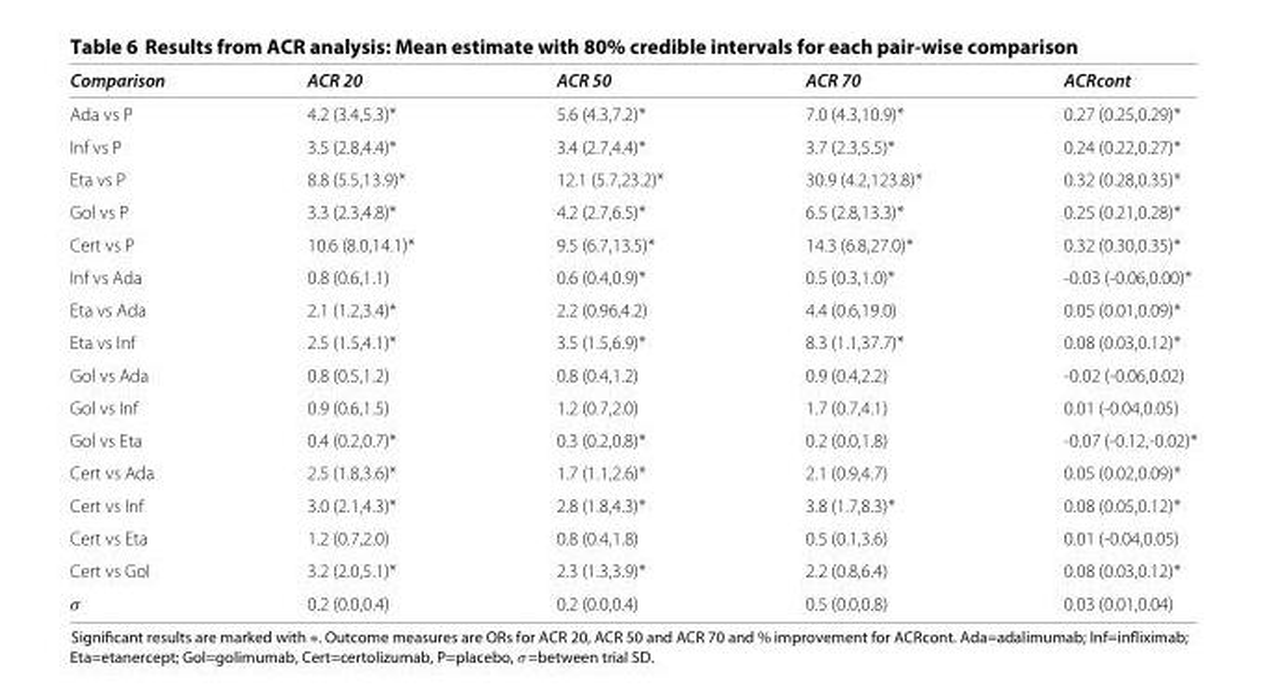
<table><thead><tr><td>Comparison</td><td>ACR 20</td><td>ACR 50</td><td>ACR 70</td><td>ACRcont</td></tr></thead><tbody><tr><td>Ada vs P</td><td>4.2 (3.4,5.3)*</td><td>5.6 (4.3,7.2)*</td><td>7.0 (4.3,10.9)*</td><td>0.27 (0.25,0.29)*</td></tr><tr><td>Inf vs P</td><td>3.5 (2.8,4.4)*</td><td>3.4 (2.7,4.4)*</td><td>3.7 (2.3,5.5)*</td><td>0.24 (0.22,0.27)*</td></tr><tr><td>Eta vs P</td><td>8.8 (5.5,13.9)*</td><td>12.1 (5.7,23.2)*</td><td>30.9 (4.2,123.8)*</td><td>0.32 (0.28,0.35)*</td></tr><tr><td>Gol vs P</td><td>3.3 (2.3,4.8)*</td><td>4.2 (2.7,6.5)*</td><td>6.5 (2.8,13.3)*</td><td>0.25 (0.21,0.28)*</td></tr><tr><td>Cert vs P</td><td>10.6 (8.0,14.1)*</td><td>9.5 (6.7,13.5)*</td><td>14.3 (6.8,27.0)*</td><td>0.32 (0.30,0.35)*</td></tr><tr><td>Inf vs Ada</td><td>0.8 (0.6,1.1)</td><td>0.6 (0.4,0.9)*</td><td>0.5 (0.3,1.0)*</td><td>-0.03 (-0.06,0.00)*</td></tr><tr><td>Eta vs Ada</td><td>2.1 (1.2,3.4)*</td><td>2.2 (0.96,4.2)</td><td>4.4 (0.6,19.0)</td><td>0.05 (0.01,0.09)*</td></tr><tr><td>Eta vs Inf</td><td>2.5 (1.5,4.1)*</td><td>3.5 (1.5,6.9)*</td><td>8.3 (1.1,37.7)*</td><td>0.08 (0.03,0.12)*</td></tr><tr><td>Gol vs Ada</td><td>0.8 (0.5,1.2)</td><td>0.8 (0.4,1.2)</td><td>0.9 (0.4,2.2)</td><td>-0.02 (-0.06,0.02)</td></tr><tr><td>Gol vs Inf</td><td>0.9 (0.6,1.5)</td><td>1.2 (0.7,2.0)</td><td>1.7 (0.7,4.1)</td><td>0.01 (-0.04,0.05)</td></tr><tr><td>Gol vs Eta</td><td>0.4 (0.2,0.7)*</td><td>0.3 (0.2,0.8)*</td><td>0.2 (0.0,1.8)</td><td>-0.07 (-0.12,-0.02)*</td></tr><tr><td>Cert vs Ada</td><td>2.5 (1.8,3.6)*</td><td>1.7 (1.1,2.6)*</td><td>2.1 (0.9,4.7)</td><td>0.05 (0.02,0.09)*</td></tr><tr><td>Cert vs Inf</td><td>3.0 (2.1,4.3)*</td><td>2.8 (1.8,4.3)*</td><td>3.8 (1.7,8.3)*</td><td>0.08 (0.05,0.12)*</td></tr><tr><td>Cert vs Eta</td><td>1.2 (0.7,2.0)</td><td>0.8 (0.4,1.8)</td><td>0.5 (0.1,3.6)</td><td>0.01 (-0.04,0.05)</td></tr><tr><td>Cert vs Gol</td><td>3.2 (2.0,5.1)*</td><td>2.3 (1.3,3.9)*</td><td>2.2 (0.8,6.4)</td><td>0.08 (0.03,0.12)*</td></tr><tr><td>σ</td><td>0.2 (0.0,0.4)</td><td>0.2 (0.0,0.4)</td><td>0.5 (0.0,0.8)</td><td>0.03 (0.01,0.04)</td></tr></tbody></table>